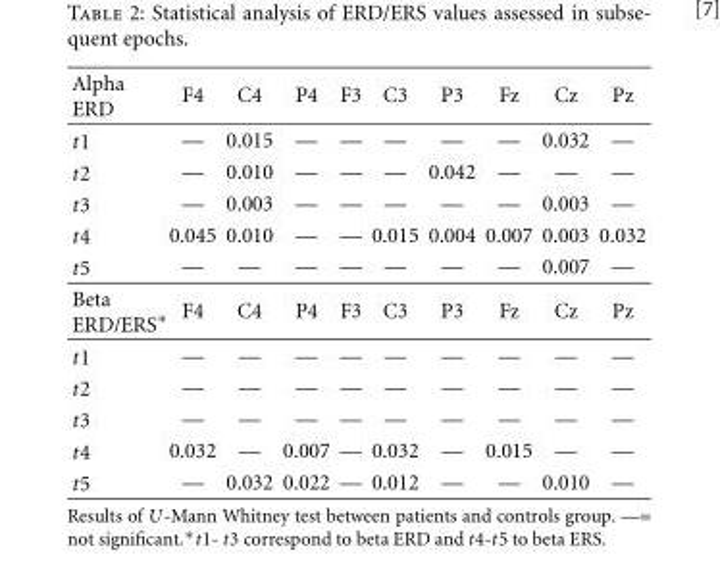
<table><thead><tr><td>Alpha ERD</td><td>F4</td><td>C4</td><td>P4</td><td>F3</td><td>C3</td><td>P3</td><td>Fz</td><td>Cz</td><td>Pz</td></tr></thead><tbody><tr><td>t1</td><td>—</td><td>0.015</td><td>—</td><td>—</td><td>—</td><td>—</td><td>—</td><td>0.032</td><td>—</td></tr><tr><td>t2</td><td>—</td><td>0.010</td><td>—</td><td>—</td><td>—</td><td>0.042</td><td>—</td><td>—</td><td>—</td></tr><tr><td>t3</td><td>—</td><td>0.003</td><td>—</td><td>—</td><td>—</td><td>—</td><td>—</td><td>0.003</td><td>—</td></tr><tr><td>t4</td><td>0.045</td><td>0.010</td><td>—</td><td>—</td><td>0.015</td><td>0.004</td><td>0.007</td><td>0.003</td><td>0.032</td></tr><tr><td>t5</td><td>—</td><td>—</td><td>—</td><td>—</td><td>—</td><td>—</td><td>—</td><td>0.007</td><td>—</td></tr><tr><td>Beta ERD/ERS∗</td><td>F4</td><td>C4</td><td>P4</td><td>F3</td><td>C3</td><td>P3</td><td>Fz</td><td>Cz</td><td>Pz</td></tr><tr><td>t1</td><td>—</td><td>—</td><td>—</td><td>—</td><td>—</td><td>—</td><td>—</td><td>—</td><td>—</td></tr><tr><td>t2</td><td>—</td><td>—</td><td>—</td><td>—</td><td>—</td><td>—</td><td>—</td><td>—</td><td>—</td></tr><tr><td>t3</td><td>—</td><td>—</td><td>—</td><td>—</td><td>—</td><td>—</td><td>—</td><td>—</td><td>—</td></tr><tr><td>t4</td><td>0.032</td><td>—</td><td>0.007</td><td>—</td><td>0.032</td><td>—</td><td>0.015</td><td>—</td><td>—</td></tr><tr><td>t5</td><td>—</td><td>0.032</td><td>0.022</td><td>—</td><td>0.012</td><td>—</td><td>—</td><td>0.010</td><td>—</td></tr></tbody></table>